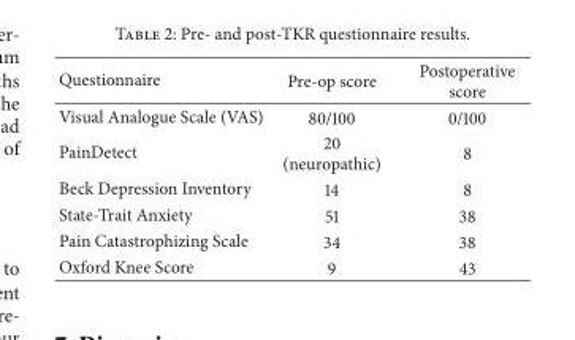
<table><thead><tr><td>Questionnaire</td><td>Pre-op score</td><td>Postoperative score</td></tr></thead><tbody><tr><td>Visual Analogue Scale (VAS)</td><td>80/100</td><td>0/100</td></tr><tr><td>PainDetect</td><td>20 (neuropathic)</td><td>8</td></tr><tr><td>Beck Depression Inventory</td><td>14</td><td>8</td></tr><tr><td>State-Trait Anxiety</td><td>51</td><td>38</td></tr><tr><td>Pain Catastrophizing Scale</td><td>34</td><td>38</td></tr><tr><td>Oxford Knee Score</td><td>9</td><td>43</td></tr></tbody></table>